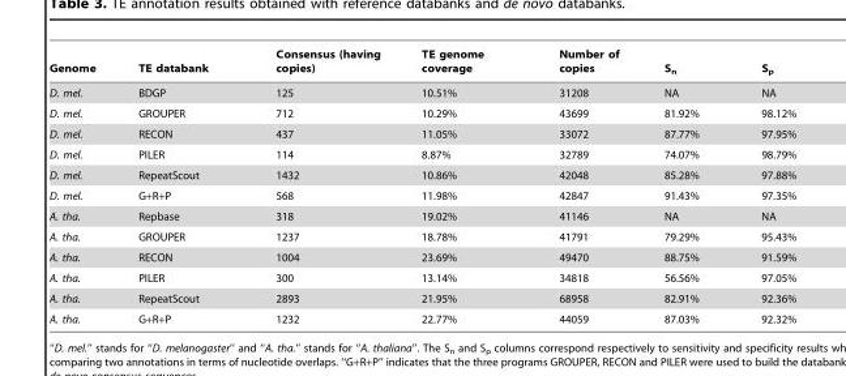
<table><thead><tr><td>Genome</td><td>TE databank</td><td>Consensus (having copies)</td><td>TE genome coverage</td><td>Number of copies</td><td>S<sub>n</sub></td><td>S<sub>p</sub></td></tr></thead><tbody><tr><td>D. mel.</td><td>BDGP</td><td>125</td><td>10.51%</td><td>31208</td><td>NA</td><td>NA</td></tr><tr><td>D. mel.</td><td>GROUPER</td><td>712</td><td>10.29%</td><td>43699</td><td>81.92%</td><td>98.12%</td></tr><tr><td>D. mel.</td><td>RECON</td><td>437</td><td>11.05%</td><td>33072</td><td>87.77%</td><td>97.95%</td></tr><tr><td>D. mel.</td><td>PILER</td><td>114</td><td>8.87%</td><td>32789</td><td>74.07%</td><td>98.79%</td></tr><tr><td>D. mel.</td><td>RepeatScout</td><td>1432</td><td>10.86%</td><td>42048</td><td>85.28%</td><td>97.88%</td></tr><tr><td>D. mel.</td><td>G+R+P</td><td>568</td><td>11.98%</td><td>42847</td><td>91.43%</td><td>97.35%</td></tr><tr><td>A. tha.</td><td>Repbase</td><td>318</td><td>19.02%</td><td>41146</td><td>NA</td><td>NA</td></tr><tr><td>A. tha.</td><td>GROUPER</td><td>1237</td><td>18.78%</td><td>41791</td><td>79.29%</td><td>95.43%</td></tr><tr><td>A. tha.</td><td>RECON</td><td>1004</td><td>23.69%</td><td>49470</td><td>88.75%</td><td>91.59%</td></tr><tr><td>A. tha.</td><td>PILER</td><td>300</td><td>13.14%</td><td>34818</td><td>56.56%</td><td>97.05%</td></tr><tr><td>A. tha.</td><td>RepeatScout</td><td>2893</td><td>21.95%</td><td>68958</td><td>82.91%</td><td>92.36%</td></tr><tr><td>A. tha.</td><td>G+R+P</td><td>1232</td><td>22.77%</td><td>44059</td><td>87.03%</td><td>92.32%</td></tr></tbody></table>